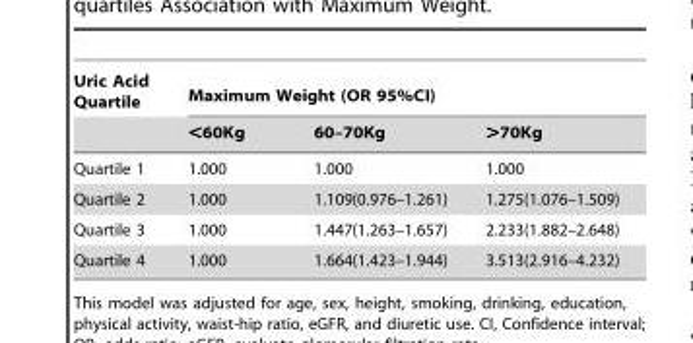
<table><thead><tr><td rowspan="2">Uric Acid Quartile</td><td colspan="3">Maximum Weight (OR 95%CI)</td></tr><tr><td>&lt;60Kg</td><td>60–70Kg</td><td>&gt;70Kg</td></tr></thead><tbody><tr><td>Quartile 1</td><td>1.000</td><td>1.000</td><td>1.000</td></tr><tr><td>Quartile 2</td><td>1.000</td><td>1.109(0.976–1.261)</td><td>1.275(1.076–1.509)</td></tr><tr><td>Quartile 3</td><td>1.000</td><td>1.447(1.263–1.657)</td><td>2.233(1.882–2.648)</td></tr><tr><td>Quartile 4</td><td>1.000</td><td>1.664(1.423–1.944)</td><td>3.513(2.916–4.232)</td></tr></tbody></table>